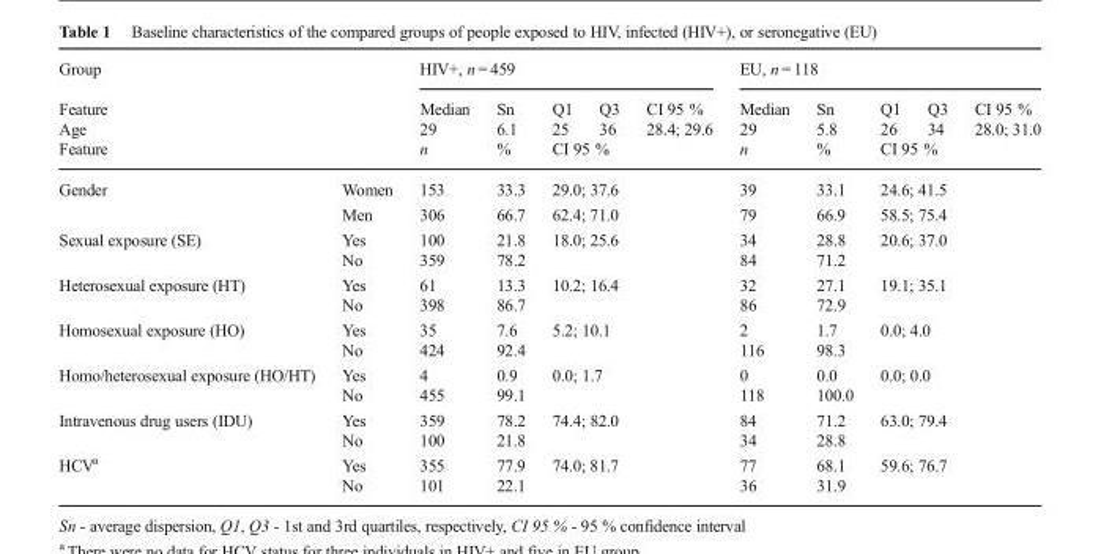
<table><thead><tr><td rowspan="4">Group Feature Age Feature</td><td rowspan="4"></td><td colspan="5">HIV+, n = 459</td><td colspan="5">EU, n = 118</td></tr><tr><td rowspan="3">Median 29 n</td><td rowspan="3">Sn 6.1 %</td><td rowspan="2">Q1 25</td><td rowspan="2">Q3 36</td><td rowspan="2">CI 95 % 28.4; 29.6</td><td rowspan="3">Median 29 n</td><td rowspan="3">Sn 5.8 %</td><td rowspan="2">Q1 26</td><td rowspan="2">Q3 34</td><td rowspan="2">CI 95 % 28.0; 31.0</td></tr><tr></tr><tr><td colspan="3">CI 95 %</td><td colspan="3">CI 95 %</td></tr></thead><tbody><tr><td rowspan="2">Gender</td><td>Women</td><td>153</td><td>33.3</td><td colspan="3">29.0; 37.6</td><td>39</td><td>33.1</td><td colspan="3">24.6; 41.5</td></tr><tr><td>Men</td><td>306</td><td>66.7</td><td colspan="3">62.4; 71.0</td><td>79</td><td>66.9</td><td colspan="3">58.5; 75.4</td></tr><tr><td rowspan="2">Sexual exposure (SE)</td><td>Yes</td><td>100</td><td>21.8</td><td rowspan="2" colspan="3">18.0; 25.6</td><td>34</td><td>28.8</td><td rowspan="2" colspan="3">20.6; 37.0</td></tr><tr><td>No</td><td>359</td><td>78.2</td><td>84</td><td>71.2</td></tr><tr><td rowspan="2">Heterosexual exposure (HT)</td><td>Yes</td><td>61</td><td>13.3</td><td rowspan="2" colspan="3">10.2; 16.4</td><td>32</td><td>27.1</td><td rowspan="2" colspan="3">19.1; 35.1</td></tr><tr><td>No</td><td>398</td><td>86.7</td><td>86</td><td>72.9</td></tr><tr><td rowspan="2">Homosexual exposure (HO)</td><td>Yes</td><td>35</td><td>7.6</td><td rowspan="2" colspan="3">5.2; 10.1</td><td>2</td><td>1.7</td><td rowspan="2" colspan="3">0.0; 4.0</td></tr><tr><td>No</td><td>424</td><td>92.4</td><td>116</td><td>98.3</td></tr><tr><td rowspan="2">Homo/heterosexual exposure (HO/HT)</td><td>Yes</td><td>4</td><td>0.9</td><td rowspan="2" colspan="3">0.0; 1.7</td><td>0</td><td>0.0</td><td rowspan="2" colspan="3">0.0; 0.0</td></tr><tr><td>No</td><td>455</td><td>99.1</td><td>118</td><td>100.0</td></tr><tr><td rowspan="2">Intravenous drug users (IDU)</td><td>Yes</td><td>359</td><td>78.2</td><td rowspan="2" colspan="3">74.4; 82.0</td><td>84</td><td>71.2</td><td rowspan="2" colspan="3">63.0; 79.4</td></tr><tr><td>No</td><td>100</td><td>21.8</td><td>34</td><td>28.8</td></tr><tr><td rowspan="2">HCV<sup>a</sup></td><td>Yes</td><td>355</td><td>77.9</td><td rowspan="2" colspan="3">74.0; 81.7</td><td>77</td><td>68.1</td><td rowspan="2" colspan="3">59.6; 76.7</td></tr><tr><td>No</td><td>101</td><td>22.1</td><td>36</td><td>31.9</td></tr></tbody></table>